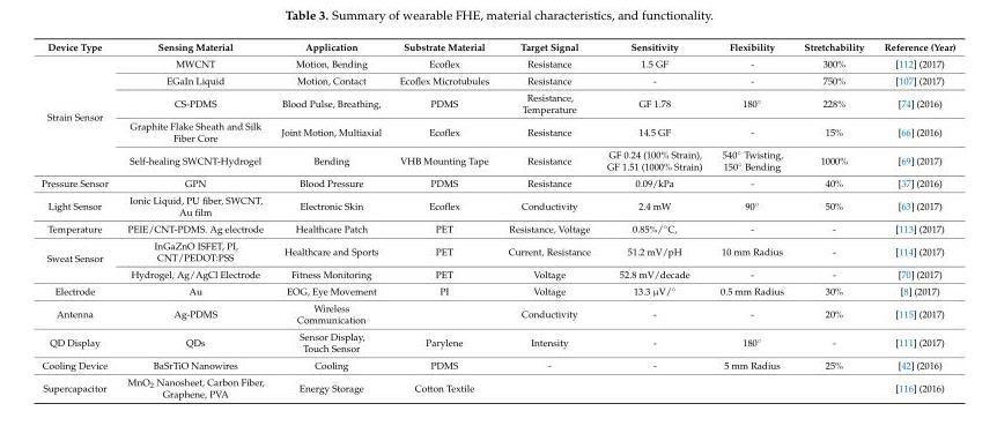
<table><thead><tr><td>Device Type</td><td>Sensing Material</td><td>Application</td><td>Substrate Material</td><td>Target Signal</td><td>Sensitivity</td><td>Flexibility</td><td>Stretchability</td><td>Reference (Year)</td></tr></thead><tbody><tr><td rowspan="5">Strain Sensor</td><td>MWCNT</td><td>Motion, Bending</td><td>Ecoflex</td><td>Resistance</td><td>1.5 GF</td><td>-</td><td>300%</td><td>[112] (2017)</td></tr><tr><td>EGaIn Liquid</td><td>Motion, Contact</td><td>Ecoflex Microtubules</td><td>Resistance</td><td>-</td><td>-</td><td>750%</td><td>[107] (2017)</td></tr><tr><td>CS-PDMS</td><td>Blood Pulse, Breathing,</td><td>PDMS</td><td>Resistance, Temperature</td><td>GF 1.78</td><td>180◦</td><td>228%</td><td>[74] (2016)</td></tr><tr><td>Graphite Flake Sheath and Silk Fiber Core</td><td>Joint Motion, Multiaxial</td><td>Ecoflex</td><td>Resistance</td><td>14.5 GF</td><td>-</td><td>15%</td><td>[66] (2016)</td></tr><tr><td>Self-healing SWCNT-Hydrogel</td><td>Bending</td><td>VHB Mounting Tape</td><td>Resistance</td><td>GF 0.24 (100% Strain), GF 1.51 (1000% Strain)</td><td>540◦ Twisting, 150◦ Bending</td><td>1000%</td><td>[69] (2017)</td></tr><tr><td>Pressure Sensor</td><td>GPN</td><td>Blood Pressure</td><td>PDMS</td><td>Resistance</td><td>0.09/kPa</td><td>-</td><td>40%</td><td>[37] (2016)</td></tr><tr><td>Light Sensor</td><td>Ionic Liquid, PU fiber, SWCNT, Au film</td><td>Electronic Skin</td><td>Ecoflex</td><td>Conductivity</td><td>2.4 mW</td><td>90◦</td><td>50%</td><td>[63] (2017)</td></tr><tr><td>Temperature</td><td>PEIE/CNT-PDMS. Ag electrode</td><td>Healthcare Patch</td><td>PET</td><td>Resistance, Voltage</td><td>0.85%/◦C,</td><td>-</td><td>-</td><td>[113] (2017)</td></tr><tr><td rowspan="2">Sweat Sensor</td><td>InGaZnO ISFET, PI, CNT/PEDOT:PSS</td><td>Healthcare and Sports</td><td>PET</td><td>Current, Resistance</td><td>51.2 mV/pH</td><td>10 mm Radius</td><td>-</td><td>[114] (2017)</td></tr><tr><td>Hydrogel, Ag/AgCl Electrode</td><td>Fitness Monitoring</td><td>PET</td><td>Voltage</td><td>52.8 mV/decade</td><td>-</td><td>-</td><td>[70] (2017)</td></tr><tr><td>Electrode</td><td>Au</td><td>EOG, Eye Movement</td><td>PI</td><td>Voltage</td><td>13.3 µV/◦</td><td>0.5 mm Radius</td><td>30%</td><td>[8] (2017)</td></tr><tr><td>Antenna</td><td>Ag-PDMS</td><td>Wireless Communication</td><td></td><td>Conductivity</td><td>-</td><td>-</td><td>20%</td><td>[115] (2017)</td></tr><tr><td>QD Display</td><td>QDs</td><td>Sensor Display, Touch Sensor</td><td>Parylene</td><td>Intensity</td><td>-</td><td>180◦</td><td>-</td><td>[111] (2017)</td></tr><tr><td>Cooling Device</td><td>BaSrTiO Nanowires</td><td>Cooling</td><td>PDMS</td><td>-</td><td>-</td><td>5 mm Radius</td><td>25%</td><td>[42] (2016)</td></tr><tr><td>Supercapacitor</td><td>MnO<sub>2</sub> Nanosheet, Carbon Fiber, Graphene, PVA</td><td>Energy Storage</td><td>Cotton Textile</td><td></td><td></td><td></td><td></td><td>[116] (2016)</td></tr></tbody></table>